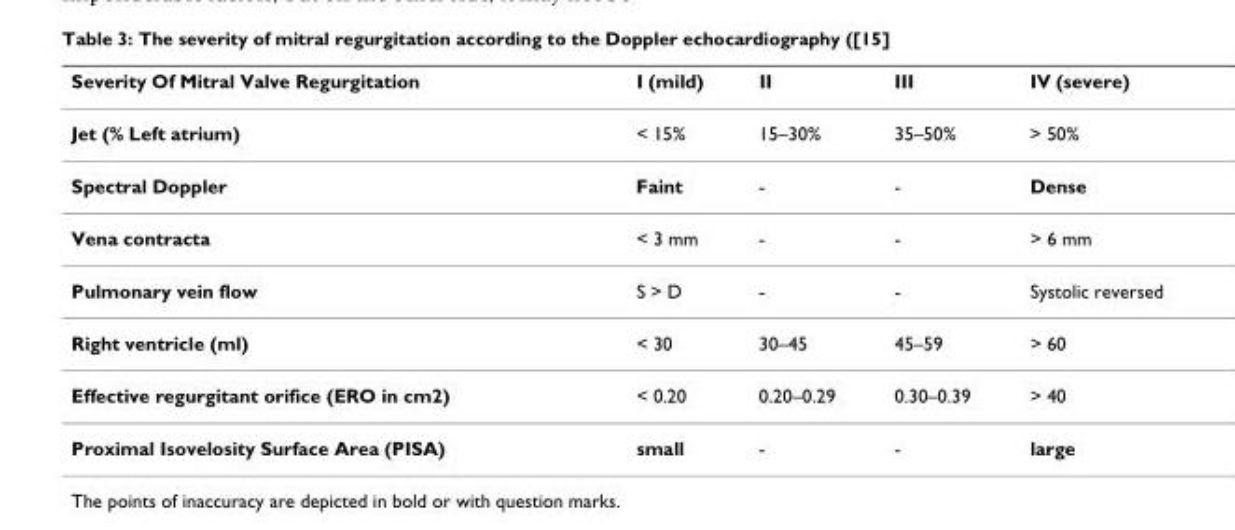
<table><thead><tr><td>Severity Of Mitral Valve Regurgitation</td><td>I (mild)</td><td>II</td><td>III</td><td>IV (severe)</td></tr></thead><tbody><tr><td>Jet (% Left atrium)</td><td>&lt; 15%</td><td>15–30%</td><td>35–50%</td><td>&gt; 50%</td></tr><tr><td>Spectral Doppler</td><td>Faint</td><td>-</td><td>-</td><td>Dense</td></tr><tr><td>Vena contracta</td><td>&lt; 3 mm</td><td>-</td><td>-</td><td>&gt; 6 mm</td></tr><tr><td>Pulmonary vein flow</td><td>S &gt; D</td><td>-</td><td>-</td><td>Systolic reversed</td></tr><tr><td>Right ventricle (ml)</td><td>&lt; 30</td><td>30–45</td><td>45–59</td><td>&gt; 60</td></tr><tr><td>Effective regurgitant orifice (ERO in cm2)</td><td>&lt; 0.20</td><td>0.20–0.29</td><td>0.30–0.39</td><td>&gt; 40</td></tr><tr><td>Proximal Isovelosity Surface Area (PISA)</td><td>small</td><td>-</td><td>-</td><td>large</td></tr></tbody></table>